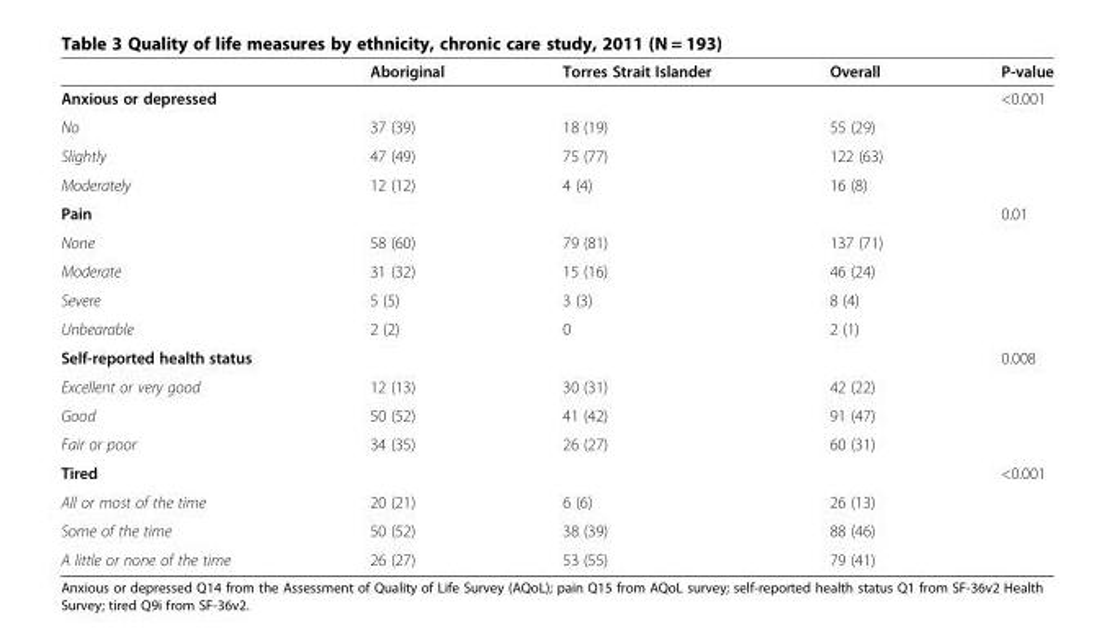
<table><thead><tr><td></td><td>Aboriginal</td><td>Torres Strait Islander</td><td>Overall</td><td>P-value</td></tr></thead><tbody><tr><td>Anxious or depressed</td><td></td><td></td><td></td><td>&lt;0.001</td></tr><tr><td>No</td><td>37 (39)</td><td>18 (19)</td><td>55 (29)</td><td></td></tr><tr><td>Slightly</td><td>47 (49)</td><td>75 (77)</td><td>122 (63)</td><td></td></tr><tr><td>Moderately</td><td>12 (12)</td><td>4 (4)</td><td>16 (8)</td><td></td></tr><tr><td>Pain</td><td></td><td></td><td></td><td>0.01</td></tr><tr><td>None</td><td>58 (60)</td><td>79 (81)</td><td>137 (71)</td><td></td></tr><tr><td>Moderate</td><td>31 (32)</td><td>15 (16)</td><td>46 (24)</td><td></td></tr><tr><td>Severe</td><td>5 (5)</td><td>3 (3)</td><td>8 (4)</td><td></td></tr><tr><td>Unbearable</td><td>2 (2)</td><td>0</td><td>2 (1)</td><td></td></tr><tr><td>Self-reported health status</td><td></td><td></td><td></td><td>0.008</td></tr><tr><td>Excellent or very good</td><td>12 (13)</td><td>30 (31)</td><td>42 (22)</td><td></td></tr><tr><td>Good</td><td>50 (52)</td><td>41 (42)</td><td>91 (47)</td><td></td></tr><tr><td>Fair or poor</td><td>34 (35)</td><td>26 (27)</td><td>60 (31)</td><td></td></tr><tr><td>Tired</td><td></td><td></td><td></td><td>&lt;0.001</td></tr><tr><td>All or most of the time</td><td>20 (21)</td><td>6 (6)</td><td>26 (13)</td><td></td></tr><tr><td>Some of the time</td><td>50 (52)</td><td>38 (39)</td><td>88 (46)</td><td></td></tr><tr><td>A little or none of the time</td><td>26 (27)</td><td>53 (55)</td><td>79 (41)</td><td></td></tr></tbody></table>